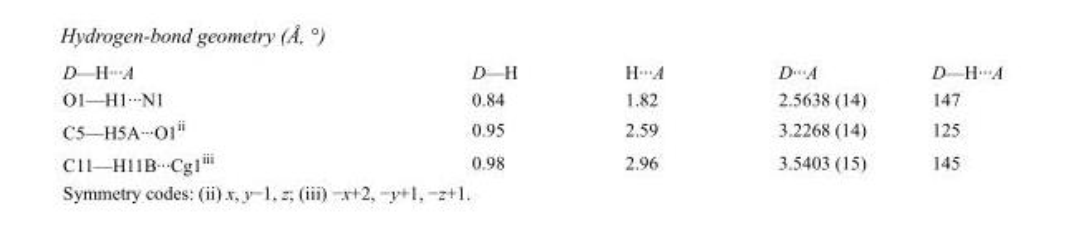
<table><tbody><tr><td>D—H···A</td><td>D—H</td><td>H···A</td><td>D···A</td><td>D—H···A</td></tr><tr><td>O1—H1···N1</td><td>0.84</td><td>1.82</td><td>2.5638 (14)</td><td>147</td></tr><tr><td>C5—H5A···O1<sup>ii</sup></td><td>0.95</td><td>2.59</td><td>3.2268 (14)</td><td>125</td></tr><tr><td>C11—H11B···Cg1<sup>iii</sup></td><td>0.98</td><td>2.96</td><td>3.5403 (15)</td><td>145</td></tr></tbody></table>